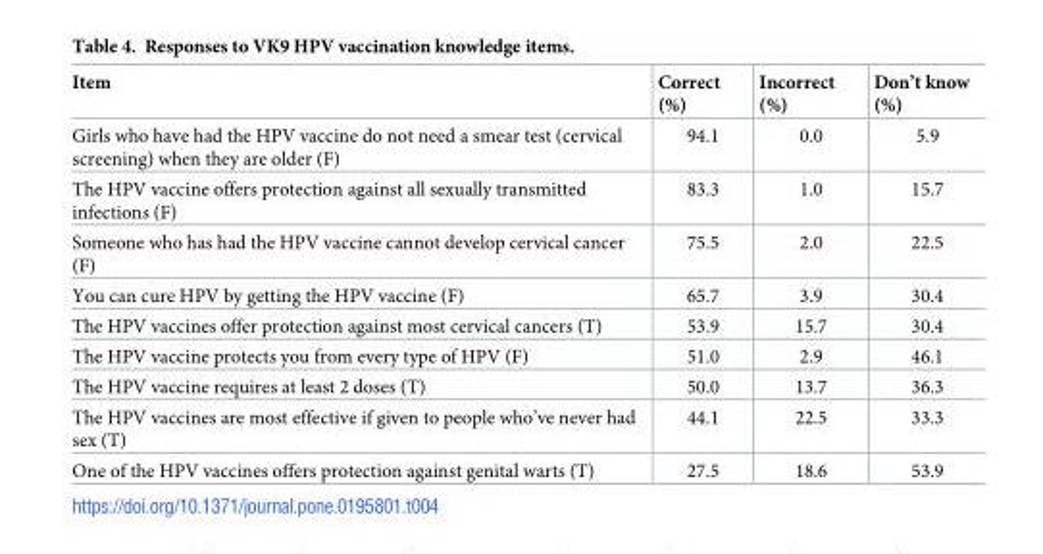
<table><thead><tr><td>Item</td><td>Correct (%)</td><td>Incorrect (%)</td><td>Don’t know (%)</td></tr></thead><tbody><tr><td>Girls who have had the HPV vaccine do not need a smear test (cervical screening) when they are older (F)</td><td>94.1</td><td>0.0</td><td>5.9</td></tr><tr><td>The HPV vaccine offers protection against all sexually transmitted infections (F)</td><td>83.3</td><td>1.0</td><td>15.7</td></tr><tr><td>Someone who has had the HPV vaccine cannot develop cervical cancer (F)</td><td>75.5</td><td>2.0</td><td>22.5</td></tr><tr><td>You can cure HPV by getting the HPV vaccine (F)</td><td>65.7</td><td>3.9</td><td>30.4</td></tr><tr><td>The HPV vaccines offer protection against most cervical cancers (T)</td><td>53.9</td><td>15.7</td><td>30.4</td></tr><tr><td>The HPV vaccine protects you from every type of HPV (F)</td><td>51.0</td><td>2.9</td><td>46.1</td></tr><tr><td>The HPV vaccine requires at least 2 doses (T)</td><td>50.0</td><td>13.7</td><td>36.3</td></tr><tr><td>The HPV vaccines are most effective if given to people who’ve never had sex (T)</td><td>44.1</td><td>22.5</td><td>33.3</td></tr><tr><td>One of the HPV vaccines offers protection against genital warts (T)</td><td>27.5</td><td>18.6</td><td>53.9</td></tr></tbody></table>